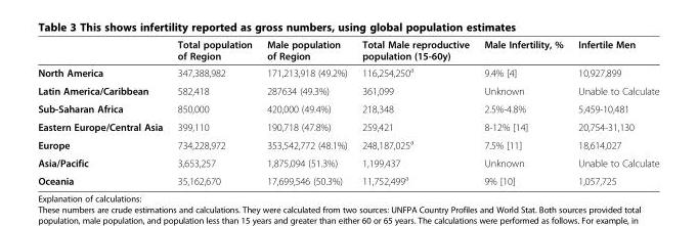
<table><thead><tr><td></td><td>Total population of Region</td><td>Male population of Region</td><td>Total Male reproductive population (15-60y)</td><td>Male Infertility, %</td><td>Infertile Men</td></tr></thead><tbody><tr><td>North America</td><td>347,388,982</td><td>171,213,918 (49.2%)</td><td>116,254,250<sup>a</sup></td><td>9.4% [4]</td><td>10,927,899</td></tr><tr><td>Latin America/Caribbean</td><td>582,418</td><td>287634 (49.3%)</td><td>361,099</td><td>Unknown</td><td>Unable to Calculate</td></tr><tr><td>Sub-Saharan Africa</td><td>850,000</td><td>420,000 (49.4%)</td><td>218,348</td><td>2.5%-4.8%</td><td>5,459-10,481</td></tr><tr><td>Eastern Europe/Central Asia</td><td>399,110</td><td>190,718 (47.8%)</td><td>259,421</td><td>8-12% [14]</td><td>20,754-31,130</td></tr><tr><td>Europe</td><td>734,228,972</td><td>353,542,772 (48.1%)</td><td>248,187,025<sup>a</sup></td><td>7.5% [11]</td><td>18,614,027</td></tr><tr><td>Asia/Pacific</td><td>3,653,257</td><td>1,875,094 (51.3%)</td><td>1,199,437</td><td>Unknown</td><td>Unable to Calculate</td></tr><tr><td>Oceania</td><td>35,162,670</td><td>17,699,546 (50.3%)</td><td>11,752,499<sup>a</sup></td><td>9% [10]</td><td>1,057,725</td></tr></tbody></table>